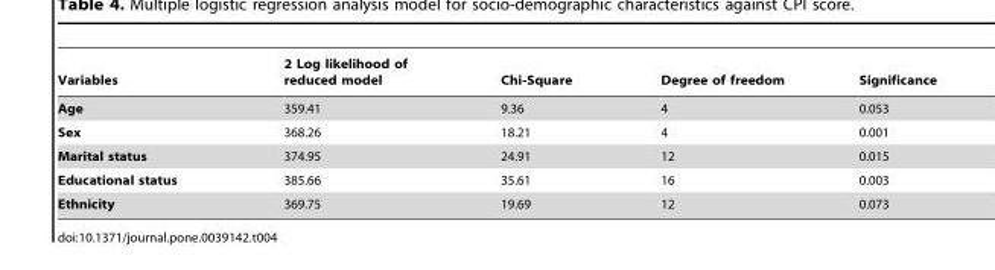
<table><thead><tr><td>Variables</td><td>2 Log likelihood of reduced model</td><td>Chi-Square</td><td>Degree of freedom</td><td>Significance</td></tr></thead><tbody><tr><td>Age</td><td>359.41</td><td>9.36</td><td>4</td><td>0.053</td></tr><tr><td>Sex</td><td>368.26</td><td>18.21</td><td>4</td><td>0.001</td></tr><tr><td>Marital status</td><td>374.95</td><td>24.91</td><td>12</td><td>0.015</td></tr><tr><td>Educational status</td><td>385.66</td><td>35.61</td><td>16</td><td>0.003</td></tr><tr><td>Ethnicity</td><td>369.75</td><td>19.69</td><td>12</td><td>0.073</td></tr></tbody></table>